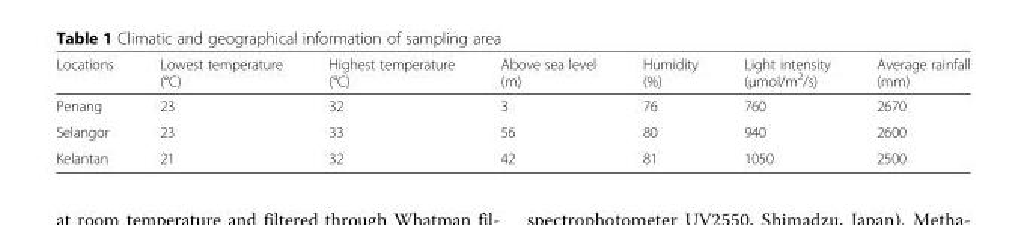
<table><thead><tr><td>Locations</td><td>Lowest temperature (°C)</td><td>Highest temperature (°C)</td><td>Above sea level (m)</td><td>Humidity (%)</td><td>Light intensity (μmol/m<sup>2</sup>/s)</td><td>Average rainfall (mm)</td></tr></thead><tbody><tr><td>Penang</td><td>23</td><td>32</td><td>3</td><td>76</td><td>760</td><td>2670</td></tr><tr><td>Selangor</td><td>23</td><td>33</td><td>56</td><td>80</td><td>940</td><td>2600</td></tr><tr><td>Kelantan</td><td>21</td><td>32</td><td>42</td><td>81</td><td>1050</td><td>2500</td></tr></tbody></table>